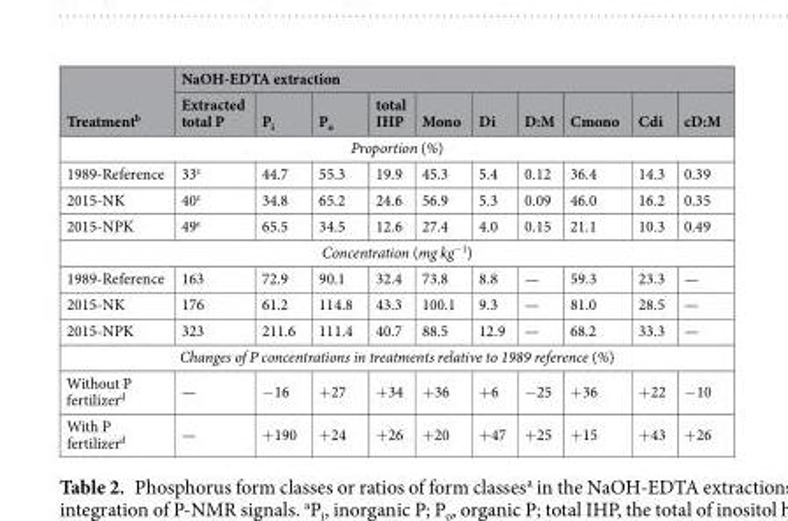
<table><thead><tr><td rowspan="2">Treatment<sup>b</sup></td><td colspan="10">NaOH-EDTA extraction</td></tr><tr><td>Extracted total P</td><td>P<sub>i</sub></td><td>P<sub>o</sub></td><td>total IHP</td><td>Mono</td><td>Di</td><td>D:M</td><td>Cmono</td><td>Cdi</td><td>cD:M</td></tr></thead><tbody><tr><td colspan="11">Proportion (%)</td></tr><tr><td>1989-Reference</td><td>33<sup>c</sup></td><td>44.7</td><td>55.3</td><td>19.9</td><td>45.3</td><td>5.4</td><td>0.12</td><td>36.4</td><td>14.3</td><td>0.39</td></tr><tr><td>2015-NK</td><td>40<sup>c</sup></td><td>34.8</td><td>65.2</td><td>24.6</td><td>56.9</td><td>5.3</td><td>0.09</td><td>46.0</td><td>16.2</td><td>0.35</td></tr><tr><td>2015-NPK</td><td>49<sup>c</sup></td><td>65.5</td><td>34.5</td><td>12.6</td><td>27.4</td><td>4.0</td><td>0.15</td><td>21.1</td><td>10.3</td><td>0.49</td></tr><tr><td colspan="11">Concentration (mg kg<sup>−1</sup>)</td></tr><tr><td>1989-Reference</td><td>163</td><td>72.9</td><td>90.1</td><td>32.4</td><td>73.8</td><td>8.8</td><td>—</td><td>59.3</td><td>23.3</td><td>—</td></tr><tr><td>2015-NK</td><td>176</td><td>61.2</td><td>114.8</td><td>43.3</td><td>100.1</td><td>9.3</td><td>—</td><td>81.0</td><td>28.5</td><td>—</td></tr><tr><td>2015-NPK</td><td>323</td><td>211.6</td><td>111.4</td><td>40.7</td><td>88.5</td><td>12.9</td><td>—</td><td>68.2</td><td>33.3</td><td>—</td></tr><tr><td colspan="11">Changes of P concentrations in treatments relative to 1989 reference (%)</td></tr><tr><td>Without P fertilizer<sup>d</sup></td><td>—</td><td>−16</td><td>+27</td><td>+34</td><td>+36</td><td>+6</td><td>−25</td><td>+36</td><td>+22</td><td>−10</td></tr><tr><td>With P fertilizer<sup>d</sup></td><td>—</td><td>+190</td><td>+24</td><td>+26</td><td>+20</td><td>+47</td><td>+25</td><td>+15</td><td>+43</td><td>+26</td></tr></tbody></table>